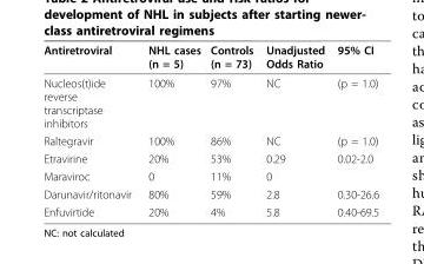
<table><thead><tr><td>Antiretroviral</td><td>NHL cases (n = 5)</td><td>Controls (n = 73)</td><td>Unadjusted Odds Ratio</td><td>95% CI</td></tr></thead><tbody><tr><td>Nucleos(t)ide reverse transcriptase inhibitors</td><td>100%</td><td>97%</td><td>NC</td><td>(p = 1.0)</td></tr><tr><td>Raltegravir</td><td>100%</td><td>86%</td><td>NC</td><td>(p = 1.0)</td></tr><tr><td>Etravirine</td><td>20%</td><td>53%</td><td>0.29</td><td>0.02-2.0</td></tr><tr><td>Maraviroc</td><td>0</td><td>11%</td><td>0</td><td></td></tr><tr><td>Darunavir/ritonavir</td><td>80%</td><td>59%</td><td>2.8</td><td>0.30-26.6</td></tr><tr><td>Enfuvirtide</td><td>20%</td><td>4%</td><td>5.8</td><td>0.40-69.5</td></tr></tbody></table>